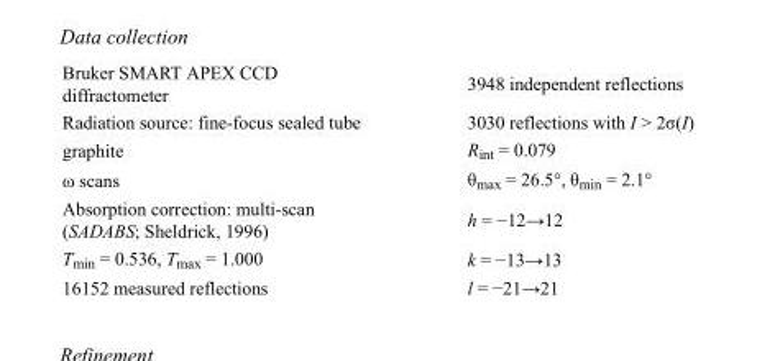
<table><tbody><tr><td>Bruker SMART APEX CCD diffractometer</td><td>3948 independent reflections</td></tr><tr><td>Radiation source: fine-focus sealed tube</td><td>3030 reflections with I &gt; 2σ(I)</td></tr><tr><td>graphite</td><td>R<sub>int</sub> = 0.079</td></tr><tr><td>ω scans</td><td>θ<sub>max</sub> = 26.5°, θ<sub>min</sub> = 2.1°</td></tr><tr><td>Absorption correction: multi-scan (SADABS; Sheldrick, 1996)</td><td>h = −12→12</td></tr><tr><td>T<sub>min</sub> = 0.536, T<sub>max</sub> = 1.000</td><td>k = −13→13</td></tr><tr><td>16152 measured reflections</td><td>l = −21→21</td></tr></tbody></table>